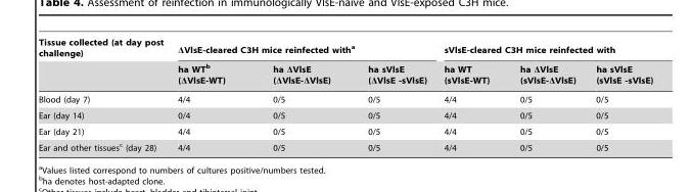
<table><thead><tr><td rowspan="2">Tissue collected (at day post challenge)</td><td colspan="3">ΔVlsE-cleared C3H mice reinfected with<sup>a</sup></td><td colspan="3">sVlsE-cleared C3H mice reinfected with</td></tr><tr><td>ha WT<sup>b</sup> (ΔVlsE-WT)</td><td>ha ΔVlsE (ΔVlsE-ΔVlsE)</td><td>ha sVlsE (ΔVlsE -sVlsE)</td><td>ha WT (sVlsE-WT)</td><td>ha ΔVlsE (sVlsE-ΔVlsE)</td><td>ha sVlsE (sVlsE -sVlsE)</td></tr></thead><tbody><tr><td>Blood (day 7)</td><td>4/4</td><td>0/5</td><td>0/5</td><td>4/4</td><td>0/5</td><td>0/5</td></tr><tr><td>Ear (day 14)</td><td>0/4</td><td>0/5</td><td>0/5</td><td>4/4</td><td>0/5</td><td>0/5</td></tr><tr><td>Ear (day 21)</td><td>4/4</td><td>0/5</td><td>0/5</td><td>4/4</td><td>0/5</td><td>0/5</td></tr><tr><td>Ear and other tissues<sup>c</sup> (day 28)</td><td>4/4</td><td>0/5</td><td>0/5</td><td>4/4</td><td>0/5</td><td>0/5</td></tr></tbody></table>